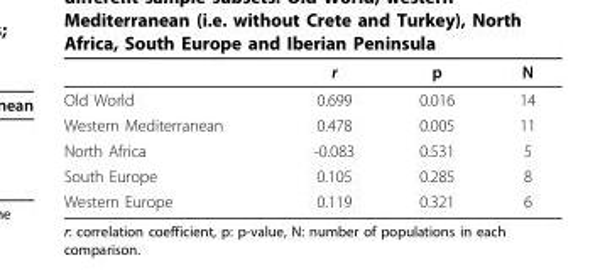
<table><thead><tr><td></td><td>r</td><td>p</td><td>N</td></tr></thead><tbody><tr><td>Old World</td><td>0.699</td><td>0.016</td><td>14</td></tr><tr><td>Western Mediterranean</td><td>0.478</td><td>0.005</td><td>11</td></tr><tr><td>North Africa</td><td>-0.083</td><td>0.531</td><td>5</td></tr><tr><td>South Europe</td><td>0.105</td><td>0.285</td><td>8</td></tr><tr><td>Western Europe</td><td>0.119</td><td>0.321</td><td>6</td></tr></tbody></table>